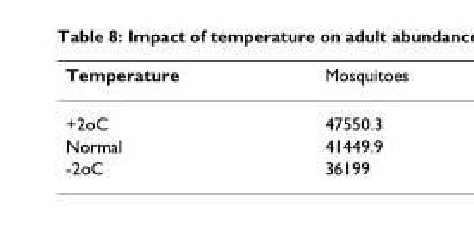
<table><thead><tr><td>Temperature</td><td>Mosquitoes</td></tr></thead><tbody><tr><td>+2oC</td><td>47550.3</td></tr><tr><td>Normal</td><td>41449.9</td></tr><tr><td>-2oC</td><td>36199</td></tr></tbody></table>